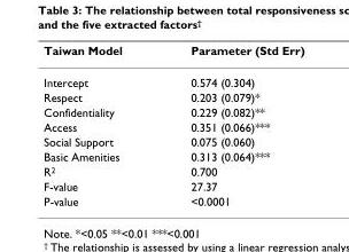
<table><thead><tr><td>Taiwan Model</td><td>Parameter (Std Err)</td></tr></thead><tbody><tr><td>Intercept</td><td>0.574 (0.304)</td></tr><tr><td>Respect</td><td>0.203 (0.079)*</td></tr><tr><td>Confidentiality</td><td>0.229 (0.082)**</td></tr><tr><td>Access</td><td>0.351 (0.066)***</td></tr><tr><td>Social Support</td><td>0.075 (0.060)</td></tr><tr><td>Basic Amenities</td><td>0.313 (0.064)***</td></tr><tr><td>R2</td><td>0.700</td></tr><tr><td>F-value</td><td>27.37</td></tr><tr><td>P-value</td><td>&lt;0.0001</td></tr></tbody></table>